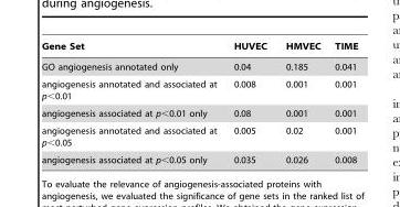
<table><thead><tr><td>Gene Set</td><td>HUVEC</td><td>HMVEC</td><td>TIME</td></tr></thead><tbody><tr><td>GO angiogenesis annotated only</td><td>0.04</td><td>0.185</td><td>0.041</td></tr><tr><td>angiogenesis annotated and associated at p&lt;0.01</td><td>0.008</td><td>0.001</td><td>0.001</td></tr><tr><td>angiogenesis associated at p&lt;0.01 only</td><td>0.08</td><td>0.001</td><td>0.001</td></tr><tr><td>angiogenesis annotated and associated at p&lt;0.05</td><td>0.005</td><td>0.02</td><td>0.001</td></tr><tr><td>angiogenesis associated at p&lt;0.05 only</td><td>0.035</td><td>0.026</td><td>0.008</td></tr></tbody></table>